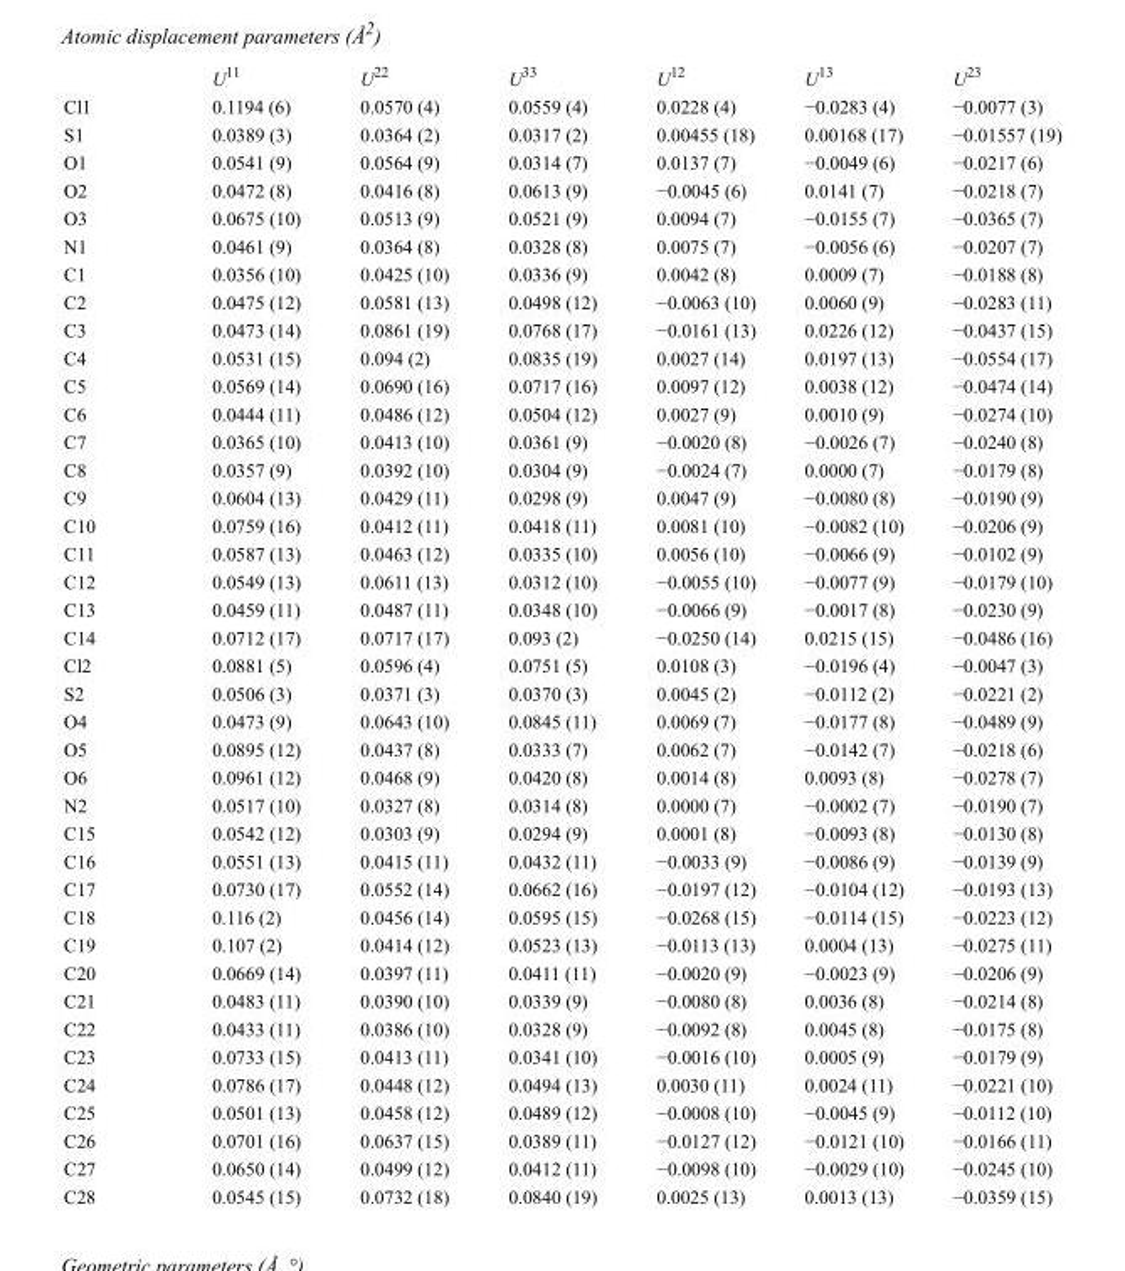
<table><thead><tr><td></td><td>U<sup>11</sup></td><td>U<sup>22</sup></td><td>U<sup>33</sup></td><td>U<sup>12</sup></td><td>U<sup>13</sup></td><td>U<sup>23</sup></td></tr></thead><tbody><tr><td>Cl1</td><td>0.1194 (6)</td><td>0.0570 (4)</td><td>0.0559 (4)</td><td>0.0228 (4)</td><td>−0.0283 (4)</td><td>−0.0077 (3)</td></tr><tr><td>S1</td><td>0.0389 (3)</td><td>0.0364 (2)</td><td>0.0317 (2)</td><td>0.00455 (18)</td><td>0.00168 (17)</td><td>−0.01557 (19)</td></tr><tr><td>O1</td><td>0.0541 (9)</td><td>0.0564 (9)</td><td>0.0314 (7)</td><td>0.0137 (7)</td><td>−0.0049 (6)</td><td>−0.0217 (6)</td></tr><tr><td>O2</td><td>0.0472 (8)</td><td>0.0416 (8)</td><td>0.0613 (9)</td><td>−0.0045 (6)</td><td>0.0141 (7)</td><td>−0.0218 (7)</td></tr><tr><td>O3</td><td>0.0675 (10)</td><td>0.0513 (9)</td><td>0.0521 (9)</td><td>0.0094 (7)</td><td>−0.0155 (7)</td><td>−0.0365 (7)</td></tr><tr><td>N1</td><td>0.0461 (9)</td><td>0.0364 (8)</td><td>0.0328 (8)</td><td>0.0075 (7)</td><td>−0.0056 (6)</td><td>−0.0207 (7)</td></tr><tr><td>C1</td><td>0.0356 (10)</td><td>0.0425 (10)</td><td>0.0336 (9)</td><td>0.0042 (8)</td><td>0.0009 (7)</td><td>−0.0188 (8)</td></tr><tr><td>C2</td><td>0.0475 (12)</td><td>0.0581 (13)</td><td>0.0498 (12)</td><td>−0.0063 (10)</td><td>0.0060 (9)</td><td>−0.0283 (11)</td></tr><tr><td>C3</td><td>0.0473 (14)</td><td>0.0861 (19)</td><td>0.0768 (17)</td><td>−0.0161 (13)</td><td>0.0226 (12)</td><td>−0.0437 (15)</td></tr><tr><td>C4</td><td>0.0531 (15)</td><td>0.094 (2)</td><td>0.0835 (19)</td><td>0.0027 (14)</td><td>0.0197 (13)</td><td>−0.0554 (17)</td></tr><tr><td>C5</td><td>0.0569 (14)</td><td>0.0690 (16)</td><td>0.0717 (16)</td><td>0.0097 (12)</td><td>0.0038 (12)</td><td>−0.0474 (14)</td></tr><tr><td>C6</td><td>0.0444 (11)</td><td>0.0486 (12)</td><td>0.0504 (12)</td><td>0.0027 (9)</td><td>0.0010 (9)</td><td>−0.0274 (10)</td></tr><tr><td>C7</td><td>0.0365 (10)</td><td>0.0413 (10)</td><td>0.0361 (9)</td><td>−0.0020 (8)</td><td>−0.0026 (7)</td><td>−0.0240 (8)</td></tr><tr><td>C8</td><td>0.0357 (9)</td><td>0.0392 (10)</td><td>0.0304 (9)</td><td>−0.0024 (7)</td><td>0.0000 (7)</td><td>−0.0179 (8)</td></tr><tr><td>C9</td><td>0.0604 (13)</td><td>0.0429 (11)</td><td>0.0298 (9)</td><td>0.0047 (9)</td><td>−0.0080 (8)</td><td>−0.0190 (9)</td></tr><tr><td>C10</td><td>0.0759 (16)</td><td>0.0412 (11)</td><td>0.0418 (11)</td><td>0.0081 (10)</td><td>−0.0082 (10)</td><td>−0.0206 (9)</td></tr><tr><td>C11</td><td>0.0587 (13)</td><td>0.0463 (12)</td><td>0.0335 (10)</td><td>0.0056 (10)</td><td>−0.0066 (9)</td><td>−0.0102 (9)</td></tr><tr><td>C12</td><td>0.0549 (13)</td><td>0.0611 (13)</td><td>0.0312 (10)</td><td>−0.0055 (10)</td><td>−0.0077 (9)</td><td>−0.0179 (10)</td></tr><tr><td>C13</td><td>0.0459 (11)</td><td>0.0487 (11)</td><td>0.0348 (10)</td><td>−0.0066 (9)</td><td>−0.0017 (8)</td><td>−0.0230 (9)</td></tr><tr><td>C14</td><td>0.0712 (17)</td><td>0.0717 (17)</td><td>0.093 (2)</td><td>−0.0250 (14)</td><td>0.0215 (15)</td><td>−0.0486 (16)</td></tr><tr><td>Cl2</td><td>0.0881 (5)</td><td>0.0596 (4)</td><td>0.0751 (5)</td><td>0.0108 (3)</td><td>−0.0196 (4)</td><td>−0.0047 (3)</td></tr><tr><td>S2</td><td>0.0506 (3)</td><td>0.0371 (3)</td><td>0.0370 (3)</td><td>0.0045 (2)</td><td>−0.0112 (2)</td><td>−0.0221 (2)</td></tr><tr><td>O4</td><td>0.0473 (9)</td><td>0.0643 (10)</td><td>0.0845 (11)</td><td>0.0069 (7)</td><td>−0.0177 (8)</td><td>−0.0489 (9)</td></tr><tr><td>O5</td><td>0.0895 (12)</td><td>0.0437 (8)</td><td>0.0333 (7)</td><td>0.0062 (7)</td><td>−0.0142 (7)</td><td>−0.0218 (6)</td></tr><tr><td>O6</td><td>0.0961 (12)</td><td>0.0468 (9)</td><td>0.0420 (8)</td><td>0.0014 (8)</td><td>0.0093 (8)</td><td>−0.0278 (7)</td></tr><tr><td>N2</td><td>0.0517 (10)</td><td>0.0327 (8)</td><td>0.0314 (8)</td><td>0.0000 (7)</td><td>−0.0002 (7)</td><td>−0.0190 (7)</td></tr><tr><td>C15</td><td>0.0542 (12)</td><td>0.0303 (9)</td><td>0.0294 (9)</td><td>0.0001 (8)</td><td>−0.0093 (8)</td><td>−0.0130 (8)</td></tr><tr><td>C16</td><td>0.0551 (13)</td><td>0.0415 (11)</td><td>0.0432 (11)</td><td>−0.0033 (9)</td><td>−0.0086 (9)</td><td>−0.0139 (9)</td></tr><tr><td>C17</td><td>0.0730 (17)</td><td>0.0552 (14)</td><td>0.0662 (16)</td><td>−0.0197 (12)</td><td>−0.0104 (12)</td><td>−0.0193 (13)</td></tr><tr><td>C18</td><td>0.116 (2)</td><td>0.0456 (14)</td><td>0.0595 (15)</td><td>−0.0268 (15)</td><td>−0.0114 (15)</td><td>−0.0223 (12)</td></tr><tr><td>C19</td><td>0.107 (2)</td><td>0.0414 (12)</td><td>0.0523 (13)</td><td>−0.0113 (13)</td><td>0.0004 (13)</td><td>−0.0275 (11)</td></tr><tr><td>C20</td><td>0.0669 (14)</td><td>0.0397 (11)</td><td>0.0411 (11)</td><td>−0.0020 (9)</td><td>−0.0023 (9)</td><td>−0.0206 (9)</td></tr><tr><td>C21</td><td>0.0483 (11)</td><td>0.0390 (10)</td><td>0.0339 (9)</td><td>−0.0080 (8)</td><td>0.0036 (8)</td><td>−0.0214 (8)</td></tr><tr><td>C22</td><td>0.0433 (11)</td><td>0.0386 (10)</td><td>0.0328 (9)</td><td>−0.0092 (8)</td><td>0.0045 (8)</td><td>−0.0175 (8)</td></tr><tr><td>C23</td><td>0.0733 (15)</td><td>0.0413 (11)</td><td>0.0341 (10)</td><td>−0.0016 (10)</td><td>0.0005 (9)</td><td>−0.0179 (9)</td></tr><tr><td>C24</td><td>0.0786 (17)</td><td>0.0448 (12)</td><td>0.0494 (13)</td><td>0.0030 (11)</td><td>0.0024 (11)</td><td>−0.0221 (10)</td></tr><tr><td>C25</td><td>0.0501 (13)</td><td>0.0458 (12)</td><td>0.0489 (12)</td><td>−0.0008 (10)</td><td>−0.0045 (9)</td><td>−0.0112 (10)</td></tr><tr><td>C26</td><td>0.0701 (16)</td><td>0.0637 (15)</td><td>0.0389 (11)</td><td>−0.0127 (12)</td><td>−0.0121 (10)</td><td>−0.0166 (11)</td></tr><tr><td>C27</td><td>0.0650 (14)</td><td>0.0499 (12)</td><td>0.0412 (11)</td><td>−0.0098 (10)</td><td>−0.0029 (10)</td><td>−0.0245 (10)</td></tr><tr><td>C28</td><td>0.0545 (15)</td><td>0.0732 (18)</td><td>0.0840 (19)</td><td>0.0025 (13)</td><td>0.0013 (13)</td><td>−0.0359 (15)</td></tr></tbody></table>